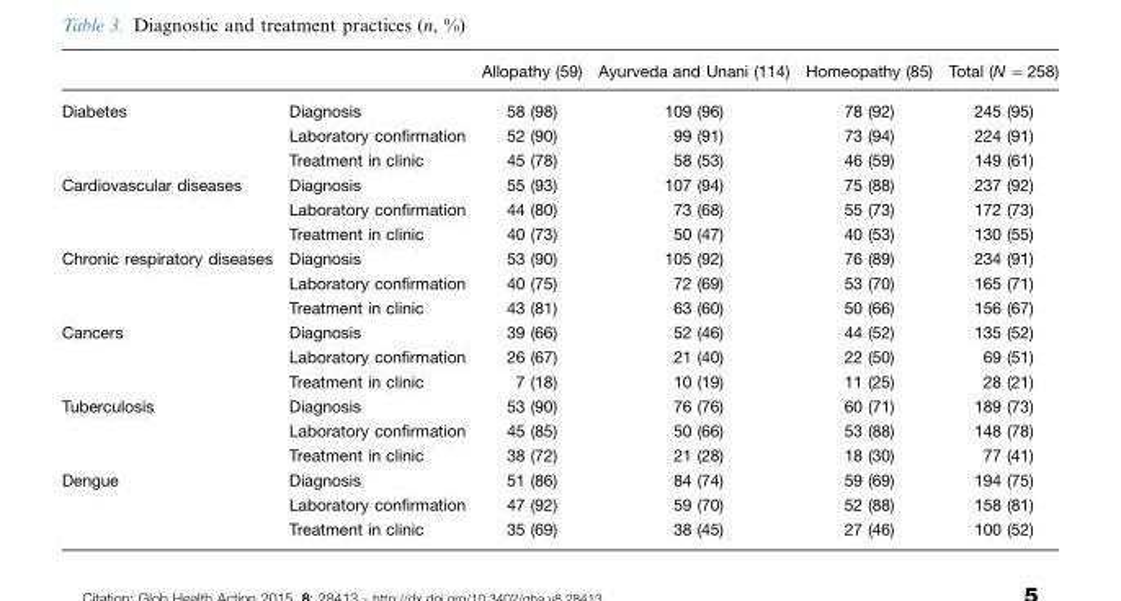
<table><thead><tr><td></td><td></td><td>Allopathy (59)</td><td>Ayurveda and Unani (114)</td><td>Homeopathy (85)</td><td>Total (N =258)</td></tr></thead><tbody><tr><td rowspan="3">Diabetes</td><td>Diagnosis</td><td>58 (98)</td><td>109 (96)</td><td>78 (92)</td><td>245 (95)</td></tr><tr><td>Laboratory confirmation</td><td>52 (90)</td><td>99 (91)</td><td>73 (94)</td><td>224 (91)</td></tr><tr><td>Treatment in clinic</td><td>45 (78)</td><td>58 (53)</td><td>46 (59)</td><td>149 (61)</td></tr><tr><td rowspan="3">Cardiovascular diseases</td><td>Diagnosis</td><td>55 (93)</td><td>107 (94)</td><td>75 (88)</td><td>237 (92)</td></tr><tr><td>Laboratory confirmation</td><td>44 (80)</td><td>73 (68)</td><td>55 (73)</td><td>172 (73)</td></tr><tr><td>Treatment in clinic</td><td>40 (73)</td><td>50 (47)</td><td>40 (53)</td><td>130 (55)</td></tr><tr><td rowspan="3">Chronic respiratory diseases</td><td>Diagnosis</td><td>53 (90)</td><td>105 (92)</td><td>76 (89)</td><td>234 (91)</td></tr><tr><td>Laboratory confirmation</td><td>40 (75)</td><td>72 (69)</td><td>53 (70)</td><td>165 (71)</td></tr><tr><td>Treatment in clinic</td><td>43 (81)</td><td>63 (60)</td><td>50 (66)</td><td>156 (67)</td></tr><tr><td rowspan="3">Cancers</td><td>Diagnosis</td><td>39 (66)</td><td>52 (46)</td><td>44 (52)</td><td>135 (52)</td></tr><tr><td>Laboratory confirmation</td><td>26 (67)</td><td>21 (40)</td><td>22 (50)</td><td>69 (51)</td></tr><tr><td>Treatment in clinic</td><td>7 (18)</td><td>10 (19)</td><td>11 (25)</td><td>28 (21)</td></tr><tr><td rowspan="3">Tuberculosis</td><td>Diagnosis</td><td>53 (90)</td><td>76 (76)</td><td>60 (71)</td><td>189 (73)</td></tr><tr><td>Laboratory confirmation</td><td>45 (85)</td><td>50 (66)</td><td>53 (88)</td><td>148 (78)</td></tr><tr><td>Treatment in clinic</td><td>38 (72)</td><td>21 (28)</td><td>18 (30)</td><td>77 (41)</td></tr><tr><td rowspan="3">Dengue</td><td>Diagnosis</td><td>51 (86)</td><td>84 (74)</td><td>59 (69)</td><td>194 (75)</td></tr><tr><td>Laboratory confirmation</td><td>47 (92)</td><td>59 (70)</td><td>52 (88)</td><td>158 (81)</td></tr><tr><td>Treatment in clinic</td><td>35 (69)</td><td>38 (45)</td><td>27 (46)</td><td>100 (52)</td></tr></tbody></table>